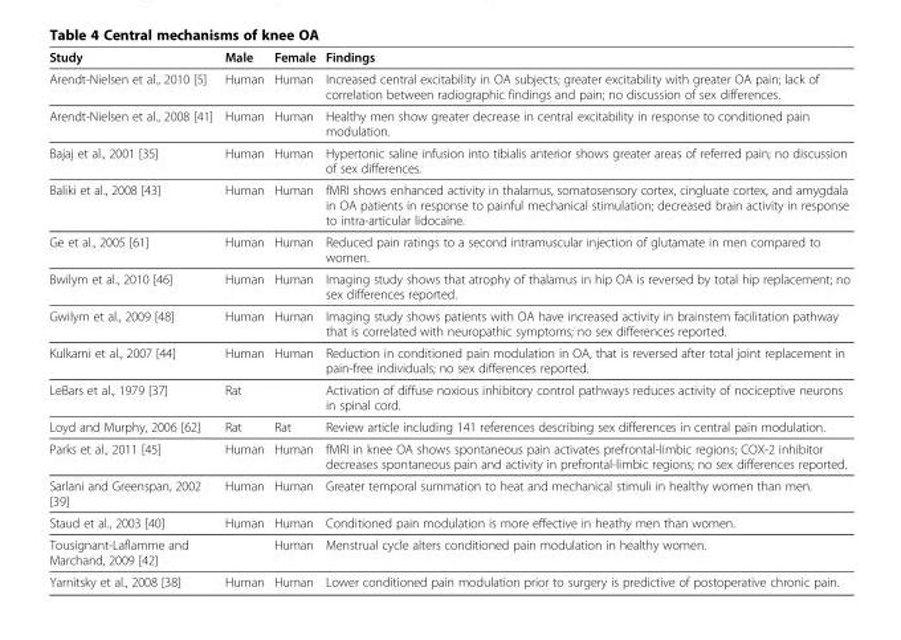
<table><thead><tr><td>Study</td><td>Male</td><td>Female</td><td>Findings</td></tr></thead><tbody><tr><td>Arendt-Nielsen et al., 2010 [5]</td><td>Human</td><td>Human</td><td>Increased central excitability in OA subjects; greater excitability with greater OA pain; lack of correlation between radiographic findings and pain; no discussion of sex differences.</td></tr><tr><td>Arendt-Nielsen et al., 2008 [41]</td><td>Human</td><td>Human</td><td>Healthy men show greater decrease in central excitability in response to conditioned pain modulation.</td></tr><tr><td>Bajaj et al., 2001 [35]</td><td>Human</td><td>Human</td><td>Hypertonic saline infusion into tibialis anterior shows greater areas of referred pain; no discussion of sex differences.</td></tr><tr><td>Baliki et al., 2008 [43]</td><td>Human</td><td>Human</td><td>fMRI shows enhanced activity in thalamus, somatosensory cortex, cingluate cortex, and amygdala in OA patients in response to painful mechanical stimulation; decreased brain activity in response to intra-articular lidocaine.</td></tr><tr><td>Ge et al., 2005 [61]</td><td>Human</td><td>Human</td><td>Reduced pain ratings to a second intramuscular injection of glutamate in men compared to women.</td></tr><tr><td>Bwilym et al., 2010 [46]</td><td>Human</td><td>Human</td><td>Imaging study shows that atrophy of thalamus in hip OA is reversed by total hip replacement; no sex differences reported.</td></tr><tr><td>Gwilym et al., 2009 [48]</td><td>Human</td><td>Human</td><td>Imaging study shows patients with OA have increased activity in brainstem facilitation pathway that is correlated with neuropathic symptoms; no sex differences reported.</td></tr><tr><td>Kulkarni et al., 2007 [44]</td><td>Human</td><td>Human</td><td>Reduction in conditioned pain modulation in OA, that is reversed after total joint replacement in pain-free individuals; no sex differences reported.</td></tr><tr><td>LeBars et al., 1979 [37]</td><td>Rat</td><td></td><td>Activation of diffuse noxious inhibitory control pathways reduces activity of nociceptive neurons in spinal cord.</td></tr><tr><td>Loyd and Murphy, 2006 [62]</td><td>Rat</td><td>Rat</td><td>Review article including 141 references describing sex differences in central pain modulation.</td></tr><tr><td>Parks et al., 2011 [45]</td><td>Human</td><td>Human</td><td>fMRI in knee OA shows spontaneous pain activates prefrontal-limbic regions; COX-2 inhibitor decreases spontaneous pain and activity in prefrontal-limbic regions; no sex differences reported.</td></tr><tr><td>Sarlani and Greenspan, 2002 [39]</td><td>Human</td><td>Human</td><td>Greater temporal summation to heat and mechanical stimuli in healthy women than men.</td></tr><tr><td>Staud et al., 2003 [40]</td><td>Human</td><td>Human</td><td>Conditioned pain modulation is more effective in heathy men than women.</td></tr><tr><td>Tousignant-Laflamme and Marchand, 2009 [42]</td><td></td><td>Human</td><td>Menstrual cycle alters conditioned pain modulation in healthy women.</td></tr><tr><td>Yarnitsky et al., 2008 [38]</td><td>Human</td><td>Human</td><td>Lower conditioned pain modulation prior to surgery is predictive of postoperative chronic pain.</td></tr></tbody></table>